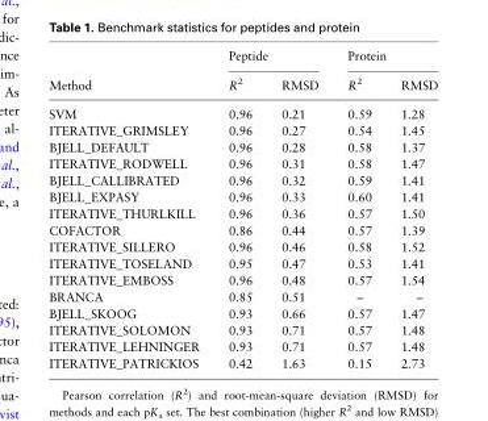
<table><thead><tr><td rowspan="2">Method</td><td colspan="2">Peptide</td><td colspan="2">Protein</td></tr><tr><td>R<sup>2</sup></td><td>RMSD</td><td>R<sup>2</sup></td><td>RMSD</td></tr></thead><tbody><tr><td>SVM</td><td>0.96</td><td>0.21</td><td>0.59</td><td>1.28</td></tr><tr><td>ITERATIVE_GRIMSLEY</td><td>0.96</td><td>0.27</td><td>0.54</td><td>1.45</td></tr><tr><td>BJELL_DEFAULT</td><td>0.96</td><td>0.28</td><td>0.58</td><td>1.37</td></tr><tr><td>ITERATIVE_RODWELL</td><td>0.96</td><td>0.31</td><td>0.58</td><td>1.47</td></tr><tr><td>BJELL_CALLIBRATED</td><td>0.96</td><td>0.32</td><td>0.59</td><td>1.41</td></tr><tr><td>BJELL_EXPASY</td><td>0.96</td><td>0.33</td><td>0.60</td><td>1.41</td></tr><tr><td>ITERATIVE_THURLKILL</td><td>0.96</td><td>0.36</td><td>0.57</td><td>1.50</td></tr><tr><td>COFACTOR</td><td>0.86</td><td>0.44</td><td>0.57</td><td>1.39</td></tr><tr><td>ITERATIVE_SILLERO</td><td>0.96</td><td>0.46</td><td>0.58</td><td>1.52</td></tr><tr><td>ITERATIVE_TOSELAND</td><td>0.95</td><td>0.47</td><td>0.53</td><td>1.41</td></tr><tr><td>ITERATIVE_EMBOSS</td><td>0.96</td><td>0.48</td><td>0.57</td><td>1.54</td></tr><tr><td>BRANCA</td><td>0.85</td><td>0.51</td><td>–</td><td>–</td></tr><tr><td>BJELL_SKOOG</td><td>0.93</td><td>0.66</td><td>0.57</td><td>1.47</td></tr><tr><td>ITERATIVE_SOLOMON</td><td>0.93</td><td>0.71</td><td>0.57</td><td>1.48</td></tr><tr><td>ITERATIVE_LEHNINGER</td><td>0.93</td><td>0.71</td><td>0.57</td><td>1.48</td></tr><tr><td>ITERATIVE_PATRICKIOS</td><td>0.42</td><td>1.63</td><td>0.15</td><td>2.73</td></tr></tbody></table>